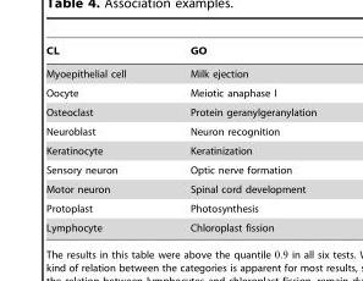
<table><thead><tr><td>CL</td><td>GO</td></tr></thead><tbody><tr><td>Myoepithelial cell</td><td>Milk ejection</td></tr><tr><td>Oocyte</td><td>Meiotic anaphase I</td></tr><tr><td>Osteoclast</td><td>Protein geranylgeranylation</td></tr><tr><td>Neuroblast</td><td>Neuron recognition</td></tr><tr><td>Keratinocyte</td><td>Keratinization</td></tr><tr><td>Sensory neuron</td><td>Optic nerve formation</td></tr><tr><td>Motor neuron</td><td>Spinal cord development</td></tr><tr><td>Protoplast</td><td>Photosynthesis</td></tr><tr><td>Lymphocyte</td><td>Chloroplast fission</td></tr></tbody></table>